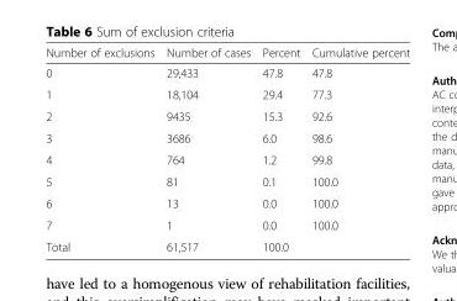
<table><thead><tr><td>Number of exclusions</td><td>Number of cases</td><td>Percent</td><td>Cumulative percent</td></tr></thead><tbody><tr><td>0</td><td>29,433</td><td>47.8</td><td>47.8</td></tr><tr><td>1</td><td>18,104</td><td>29.4</td><td>77.3</td></tr><tr><td>2</td><td>9435</td><td>15.3</td><td>92.6</td></tr><tr><td>3</td><td>3686</td><td>6.0</td><td>98.6</td></tr><tr><td>4</td><td>764</td><td>1.2</td><td>99.8</td></tr><tr><td>5</td><td>81</td><td>0.1</td><td>100.0</td></tr><tr><td>6</td><td>13</td><td>0.0</td><td>100.0</td></tr><tr><td>7</td><td>1</td><td>0.0</td><td>100.0</td></tr><tr><td>Total</td><td>61,517</td><td>100.0</td><td></td></tr></tbody></table>